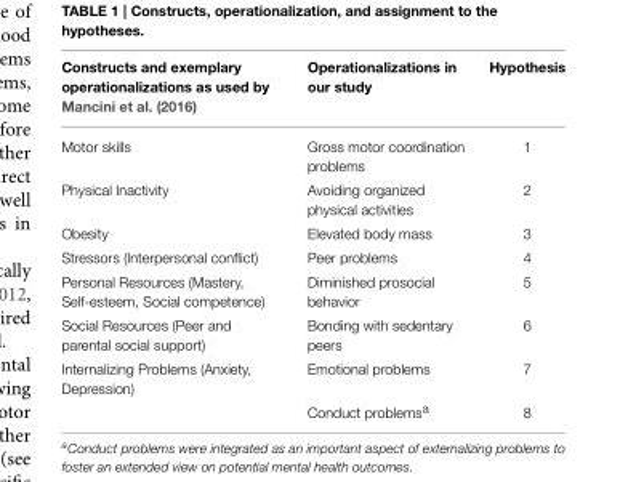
<table><thead><tr><td>Constructs and exemplary operationalizations as used by Mancini et al. (2016)</td><td>Operationalizations in our study</td><td>Hypothesis</td></tr></thead><tbody><tr><td>Motor skills</td><td>Gross motor coordination problems</td><td>1</td></tr><tr><td>Physical Inactivity</td><td>Avoiding organized physical activities</td><td>2</td></tr><tr><td>Obesity</td><td>Elevated body mass</td><td>3</td></tr><tr><td>Stressors (Interpersonal conflict)</td><td>Peer problems</td><td>4</td></tr><tr><td>Personal Resources (Mastery, Self-esteem, Social competence)</td><td>Diminished prosocial behavior</td><td>5</td></tr><tr><td>Social Resources (Peer and parental social support)</td><td>Bonding with sedentary peers</td><td>6</td></tr><tr><td rowspan="2">Internalizing Problems (Anxiety, Depression)</td><td>Emotional problems</td><td>7</td></tr><tr><td>Conduct problems<sup>a</sup></td><td>8</td></tr></tbody></table>